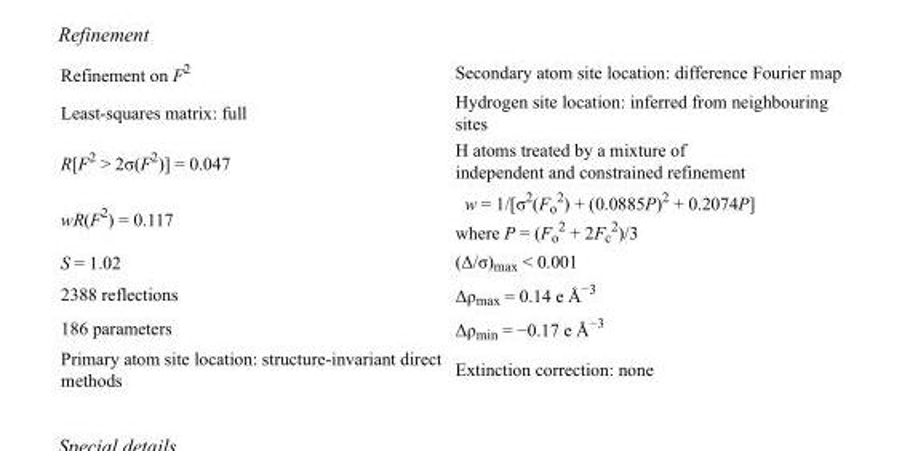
<table><tbody><tr><td>Refinement on F<sup>2</sup></td><td>Secondary atom site location: difference Fourier map</td></tr><tr><td>Least-squares matrix: full</td><td>Hydrogen site location: inferred from neighbouring sites</td></tr><tr><td>R[F<sup>2</sup> &gt; 2σ(F<sup>2</sup>)] = 0.047</td><td>H atoms treated by a mixture of independent and constrained refinement</td></tr><tr><td>wR(F<sup>2</sup>) = 0.117</td><td>w = 1/[σ<sup>2</sup>(F<sub>o</sub> <sup>2</sup>) + (0.0885P)<sup>2</sup> + 0.2074P] where P = (F<sub>o</sub> <sup>2</sup> + 2F<sub>c</sub> <sup>2</sup>)/3</td></tr><tr><td>S = 1.02</td><td>(Δ/σ)<sub>max</sub> &lt; 0.001</td></tr><tr><td>2388 reflections</td><td>Δρ<sub>max</sub> = 0.14 e Å<sup>−3</sup></td></tr><tr><td>186 parameters</td><td>Δρ<sub>min</sub> = −0.17 e Å<sup>−3</sup></td></tr><tr><td>Primary atom site location: structure-invariant direct methods</td><td>Extinction correction: none</td></tr></tbody></table>